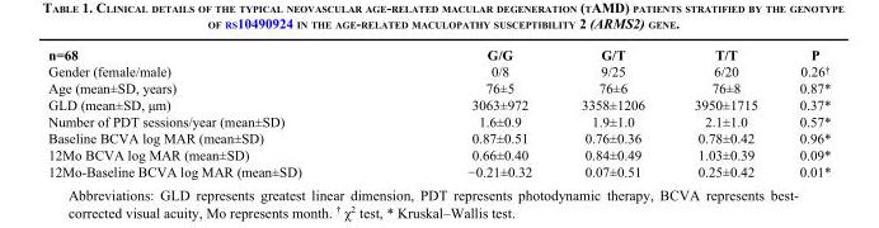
<table><thead><tr><td>n=68</td><td>G/G</td><td>G/T</td><td>T/T</td><td>P</td></tr></thead><tbody><tr><td>Gender (female/male)</td><td>0/8</td><td>9/25</td><td>6/20</td><td>0.26<sup>†</sup></td></tr><tr><td>Age (mean±SD, years)</td><td>76±5</td><td>76±6</td><td>76±8</td><td>0.87*</td></tr><tr><td>GLD (mean±SD, μm)</td><td>3063±972</td><td>3358±1206</td><td>3950±1715</td><td>0.37*</td></tr><tr><td>Number of PDT sessions/year (mean±SD)</td><td>1.6±0.9</td><td>1.9±1.0</td><td>2.1±1.0</td><td>0.57*</td></tr><tr><td>Baseline BCVA log MAR (mean±SD)</td><td>0.87±0.51</td><td>0.76±0.36</td><td>0.78±0.42</td><td>0.96*</td></tr><tr><td>12Mo BCVA log MAR (mean±SD)</td><td>0.66±0.40</td><td>0.84±0.49</td><td>1.03±0.39</td><td>0.09*</td></tr><tr><td>12Mo-Baseline BCVA log MAR (mean±SD)</td><td>−0.21±0.32</td><td>0.07±0.51</td><td>0.25±0.42</td><td>0.01*</td></tr></tbody></table>